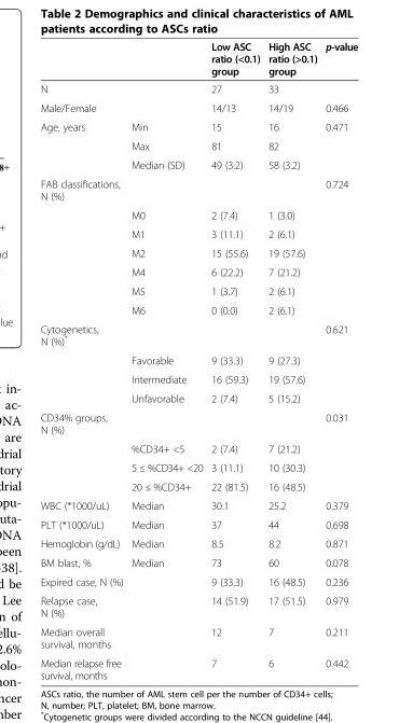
<table><thead><tr><td></td><td></td><td>Low ASC ratio (&lt;0.1) group</td><td>High ASC ratio (&gt;0.1) group</td><td>p-value</td></tr></thead><tbody><tr><td>N</td><td></td><td>27</td><td>33</td><td></td></tr><tr><td>Male/Female</td><td></td><td>14/13</td><td>14/19</td><td>0.466</td></tr><tr><td rowspan="3">Age, years</td><td>Min</td><td>15</td><td>16</td><td>0.471</td></tr><tr><td>Max</td><td>81</td><td>82</td><td></td></tr><tr><td>Median (SD)</td><td>49 (3.2)</td><td>58 (3.2)</td><td></td></tr><tr><td colspan="2">FAB classifications, N (%)</td><td></td><td></td><td>0.724</td></tr><tr><td></td><td>M0</td><td>2 (7.4)</td><td>1 (3.0)</td><td></td></tr><tr><td></td><td>M1</td><td>3 (11.1)</td><td>2 (6.1)</td><td></td></tr><tr><td></td><td>M2</td><td>15 (55.6)</td><td>19 (57.6)</td><td></td></tr><tr><td></td><td>M4</td><td>6 (22.2)</td><td>7 (21.2)</td><td></td></tr><tr><td></td><td>M5</td><td>1 (3.7)</td><td>2 (6.1)</td><td></td></tr><tr><td></td><td>M6</td><td>0 (0.0)</td><td>2 (6.1)</td><td></td></tr><tr><td rowspan="4">Cytogenetics, N (%)*</td><td></td><td></td><td></td><td>0.621</td></tr><tr><td>Favorable</td><td>9 (33.3)</td><td>9 (27.3)</td><td></td></tr><tr><td>Intermediate</td><td>16 (59.3)</td><td>19 (57.6)</td><td></td></tr><tr><td>Unfavorable</td><td>2 (7.4)</td><td>5 (15.2)</td><td></td></tr><tr><td rowspan="4">CD34% groups, N (%)</td><td></td><td></td><td></td><td>0.031</td></tr><tr><td>%CD34+ &lt;5</td><td>2 (7.4)</td><td>7 (21.2)</td><td></td></tr><tr><td>5 ≤ %CD34+ &lt;20</td><td>3 (11.1)</td><td>10 (30.3)</td><td></td></tr><tr><td>20 ≤ %CD34+</td><td>22 (81.5)</td><td>16 (48.5)</td><td></td></tr><tr><td>WBC (*1000/uL)</td><td>Median</td><td>30.1</td><td>25.2</td><td>0.379</td></tr><tr><td>PLT (*1000/uL)</td><td>Median</td><td>37</td><td>44</td><td>0.698</td></tr><tr><td>Hemoglobin (g/dL)</td><td>Median</td><td>8.5</td><td>8.2</td><td>0.871</td></tr><tr><td>BM blast, %</td><td>Median</td><td>73</td><td>60</td><td>0.078</td></tr><tr><td>Expired case, N (%)</td><td></td><td>9 (33.3)</td><td>16 (48.5)</td><td>0.236</td></tr><tr><td>Relapse case, N (%)</td><td></td><td>14 (51.9)</td><td>17 (51.5)</td><td>0.979</td></tr><tr><td>Median overall survival, months</td><td></td><td>12</td><td>7</td><td>0.211</td></tr><tr><td>Median relapse free survival, months</td><td></td><td>7</td><td>6</td><td>0.442</td></tr></tbody></table>